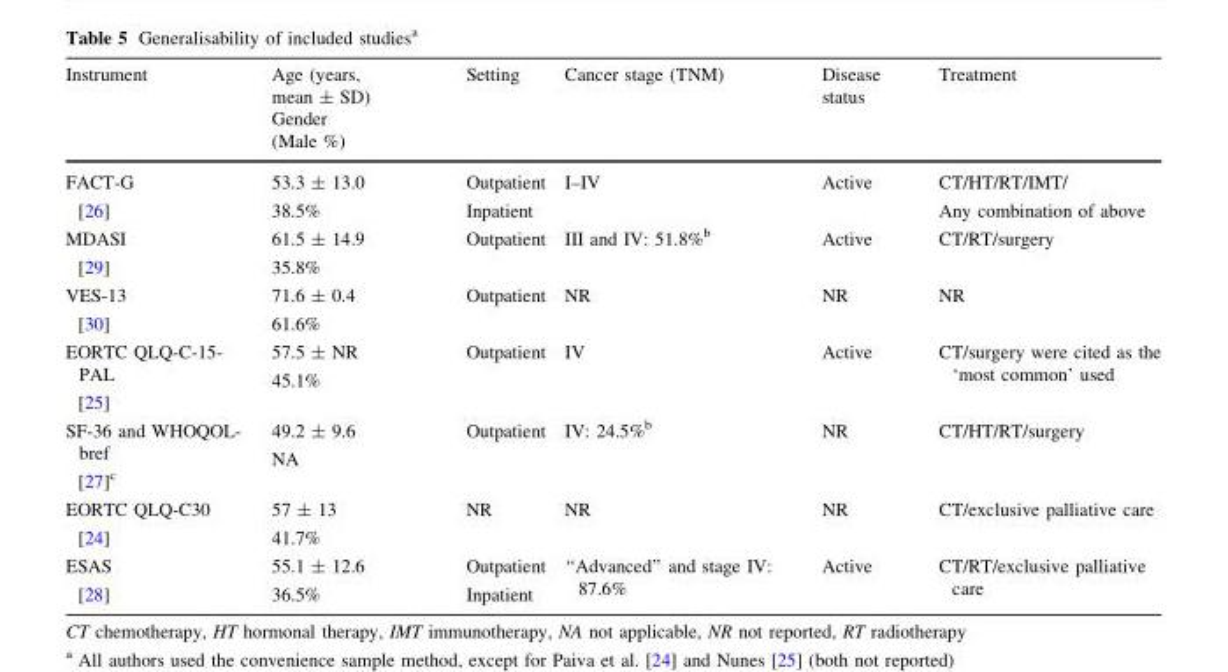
<table><thead><tr><td>Instrument</td><td>Age (years, mean ± SD) Gender (Male %)</td><td>Setting</td><td>Cancer stage (TNM)</td><td>Disease status</td><td>Treatment</td></tr></thead><tbody><tr><td>FACT-G [26]</td><td>53.3 ± 13.0 38.5%</td><td>Outpatient Inpatient</td><td>I–IV</td><td>Active</td><td>CT/HT/RT/IMT/ Any combination of above</td></tr><tr><td>MDASI [29]</td><td>61.5 ± 14.9 35.8%</td><td>Outpatient</td><td>III and IV: 51.8%<sup>b</sup></td><td>Active</td><td>CT/RT/surgery</td></tr><tr><td>VES-13 [30]</td><td>71.6 ± 0.4 61.6%</td><td>Outpatient</td><td>NR</td><td>NR</td><td>NR</td></tr><tr><td>EORTC QLQ-C-15- PAL [25]</td><td>57.5 ± NR 45.1%</td><td>Outpatient</td><td>IV</td><td>Active</td><td>CT/surgery were cited as the ‘most common’ used</td></tr><tr><td>SF-36 and WHOQOL- bref [27]<sup>c</sup></td><td>49.2 ± 9.6 NA</td><td>Outpatient</td><td>IV: 24.5%<sup>b</sup></td><td>NR</td><td>CT/HT/RT/surgery</td></tr><tr><td>EORTC QLQ-C30 [24]</td><td>57 ± 13 41.7%</td><td>NR</td><td>NR</td><td>NR</td><td>CT/exclusive palliative care</td></tr><tr><td>ESAS [28]</td><td>55.1 ± 12.6 36.5%</td><td>Outpatient Inpatient</td><td>‘‘Advanced’’ and stage IV: 87.6%</td><td>Active</td><td>CT/RT/exclusive palliative care</td></tr></tbody></table>